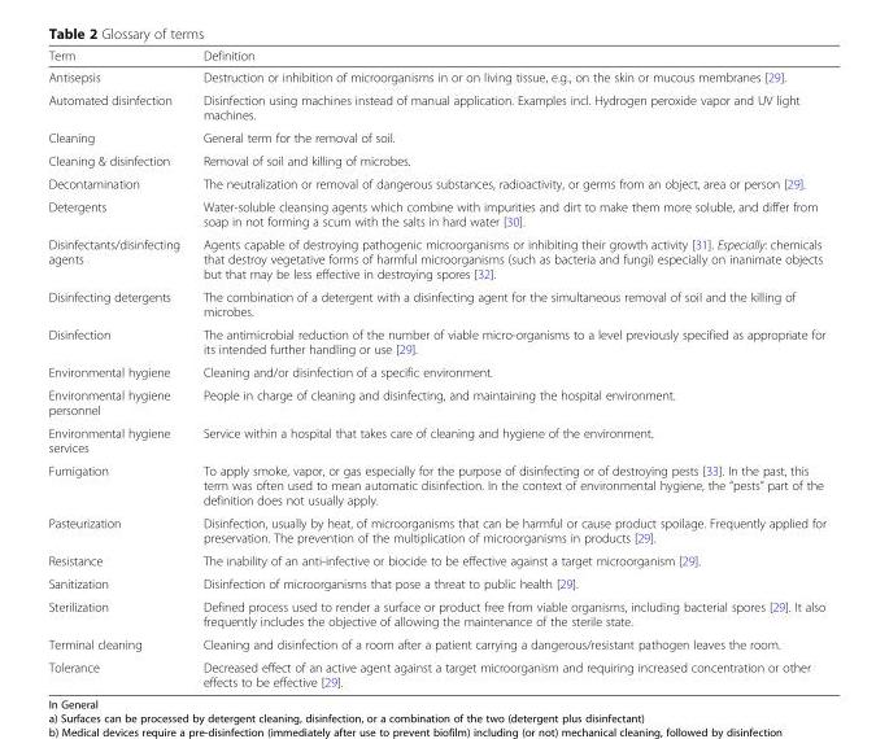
<table><thead><tr><td>Term</td><td>Definition</td></tr></thead><tbody><tr><td>Antisepsis</td><td>Destruction or inhibition of microorganisms in or on living tissue, e.g., on the skin or mucous membranes [29].</td></tr><tr><td>Automated disinfection</td><td>Disinfection using machines instead of manual application. Examples incl. Hydrogen peroxide vapor and UV light machines.</td></tr><tr><td>Cleaning</td><td>General term for the removal of soil.</td></tr><tr><td>Cleaning &amp; disinfection</td><td>Removal of soil and killing of microbes.</td></tr><tr><td>Decontamination</td><td>The neutralization or removal of dangerous substances, radioactivity, or germs from an object, area or person [29].</td></tr><tr><td>Detergents</td><td>Water-soluble cleansing agents which combine with impurities and dirt to make them more soluble, and differ from soap in not forming a scum with the salts in hard water [30].</td></tr><tr><td>Disinfectants/disinfecting agents</td><td>Agents capable of destroying pathogenic microorganisms or inhibiting their growth activity [31]. Especially: chemicals that destroy vegetative forms of harmful microorganisms (such as bacteria and fungi) especially on inanimate objects but that may be less effective in destroying spores [32].</td></tr><tr><td>Disinfecting detergents</td><td>The combination of a detergent with a disinfecting agent for the simultaneous removal of soil and the killing of microbes.</td></tr><tr><td>Disinfection</td><td>The antimicrobial reduction of the number of viable micro-organisms to a level previously specified as appropriate for its intended further handling or use [29].</td></tr><tr><td>Environmental hygiene</td><td>Cleaning and/or disinfection of a specific environment.</td></tr><tr><td>Environmental hygiene personnel</td><td>People in charge of cleaning and disinfecting, and maintaining the hospital environment.</td></tr><tr><td>Environmental hygiene services</td><td>Service within a hospital that takes care of cleaning and hygiene of the environment.</td></tr><tr><td>Fumigation</td><td>To apply smoke, vapor, or gas especially for the purpose of disinfecting or of destroying pests [33]. In the past, this term was often used to mean automatic disinfection. In the context of environmental hygiene, the “pests” part of the definition does not usually apply.</td></tr><tr><td>Pasteurization</td><td>Disinfection, usually by heat, of microorganisms that can be harmful or cause product spoilage. Frequently applied for preservation. The prevention of the multiplication of microorganisms in products [29].</td></tr><tr><td>Resistance</td><td>The inability of an anti-infective or biocide to be effective against a target microorganism [29].</td></tr><tr><td>Sanitization</td><td>Disinfection of microorganisms that pose a threat to public health [29].</td></tr><tr><td>Sterilization</td><td>Defined process used to render a surface or product free from viable organisms, including bacterial spores [29]. It also frequently includes the objective of allowing the maintenance of the sterile state.</td></tr><tr><td>Terminal cleaning</td><td>Cleaning and disinfection of a room after a patient carrying a dangerous/resistant pathogen leaves the room.</td></tr><tr><td>Tolerance</td><td>Decreased effect of an active agent against a target microorganism and requiring increased concentration or other effects to be effective [29].</td></tr></tbody></table>